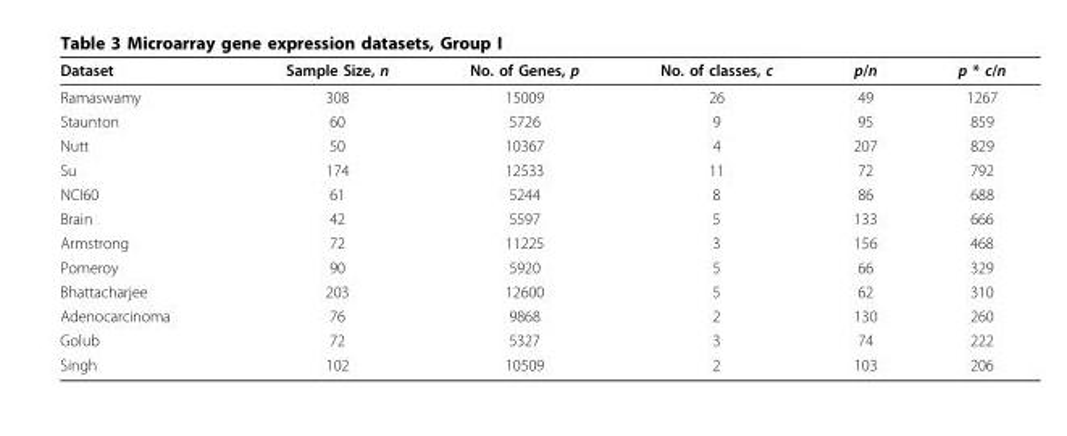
<table><thead><tr><td>Dataset</td><td>Sample Size, n</td><td>No. of Genes, p</td><td>No. of classes, c</td><td>p/n</td><td>p * c/n</td></tr></thead><tbody><tr><td>Ramaswamy</td><td>308</td><td>15009</td><td>26</td><td>49</td><td>1267</td></tr><tr><td>Staunton</td><td>60</td><td>5726</td><td>9</td><td>95</td><td>859</td></tr><tr><td>Nutt</td><td>50</td><td>10367</td><td>4</td><td>207</td><td>829</td></tr><tr><td>Su</td><td>174</td><td>12533</td><td>11</td><td>72</td><td>792</td></tr><tr><td>NCI60</td><td>61</td><td>5244</td><td>8</td><td>86</td><td>688</td></tr><tr><td>Brain</td><td>42</td><td>5597</td><td>5</td><td>133</td><td>666</td></tr><tr><td>Armstrong</td><td>72</td><td>11225</td><td>3</td><td>156</td><td>468</td></tr><tr><td>Pomeroy</td><td>90</td><td>5920</td><td>5</td><td>66</td><td>329</td></tr><tr><td>Bhattacharjee</td><td>203</td><td>12600</td><td>5</td><td>62</td><td>310</td></tr><tr><td>Adenocarcinoma</td><td>76</td><td>9868</td><td>2</td><td>130</td><td>260</td></tr><tr><td>Golub</td><td>72</td><td>5327</td><td>3</td><td>74</td><td>222</td></tr><tr><td>Singh</td><td>102</td><td>10509</td><td>2</td><td>103</td><td>206</td></tr></tbody></table>